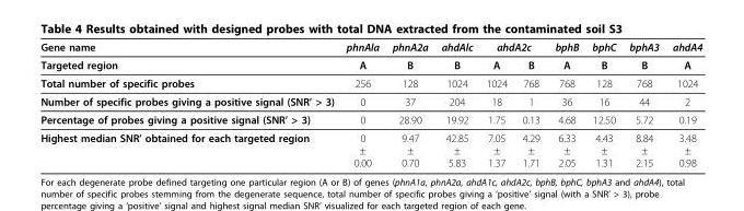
<table><thead><tr><td rowspan="2">Gene name Targeted region</td><td rowspan="2">phnAla A</td><td rowspan="2">phnA2a B</td><td rowspan="2">ahdAlc B</td><td colspan="2">ahdA2c</td><td rowspan="2">bphB A</td><td rowspan="2">bphC B</td><td rowspan="2">bphA3 B</td><td rowspan="2">ahdA4 A</td></tr><tr><td>A</td><td>B</td></tr></thead><tbody><tr><td>Total number of specific probes</td><td>256</td><td>128</td><td>1024</td><td>1024</td><td>768</td><td>768</td><td>128</td><td>768</td><td>1024</td></tr><tr><td>Number of specific probes giving a positive signal (SNR’ &gt; 3)</td><td>0</td><td>37</td><td>204</td><td>18</td><td>1</td><td>36</td><td>16</td><td>44</td><td>2</td></tr><tr><td>Percentage of probes giving a positive signal (SNR’ &gt; 3)</td><td>0</td><td>28.90</td><td>19.92</td><td>1.75</td><td>0.13</td><td>4.68</td><td>12.50</td><td>5.72</td><td>0.19</td></tr><tr><td>Highest median SNR’ obtained for each targeted region</td><td>0 ± 0.00</td><td>9.47 ± 0.70</td><td>42.85 ± 5.83</td><td>7.05 ± 1.37</td><td>4.29 ± 1.71</td><td>6.33 ± 2.05</td><td>4.43 ± 1.31</td><td>8.84 ± 2.15</td><td>3.48 ± 0.98</td></tr></tbody></table>